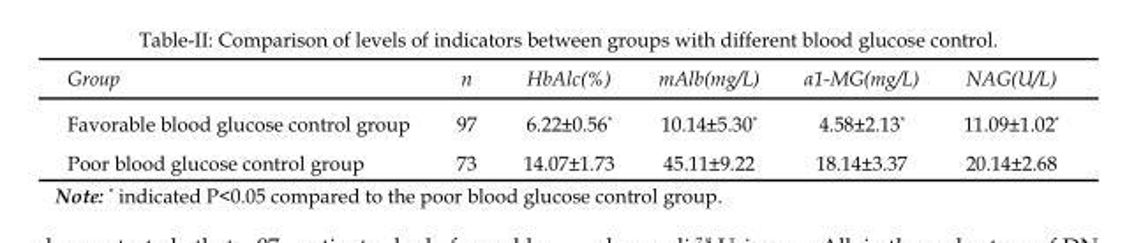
<table><thead><tr><td>Group</td><td>n</td><td>HbAlc(%)</td><td>mAlb(mg/L)</td><td>α1-MG(mg/L)</td><td>NAG(U/L)</td></tr></thead><tbody><tr><td>Favorable blood glucose control group</td><td>97</td><td>6.22±0.56*</td><td>10.14±5.30*</td><td>4.58±2.13*</td><td>11.09±1.02*</td></tr><tr><td>Poor blood glucose control group</td><td>73</td><td>14.07±1.73</td><td>45.11±9.22</td><td>18.14±3.37</td><td>20.14±2.68</td></tr></tbody></table>